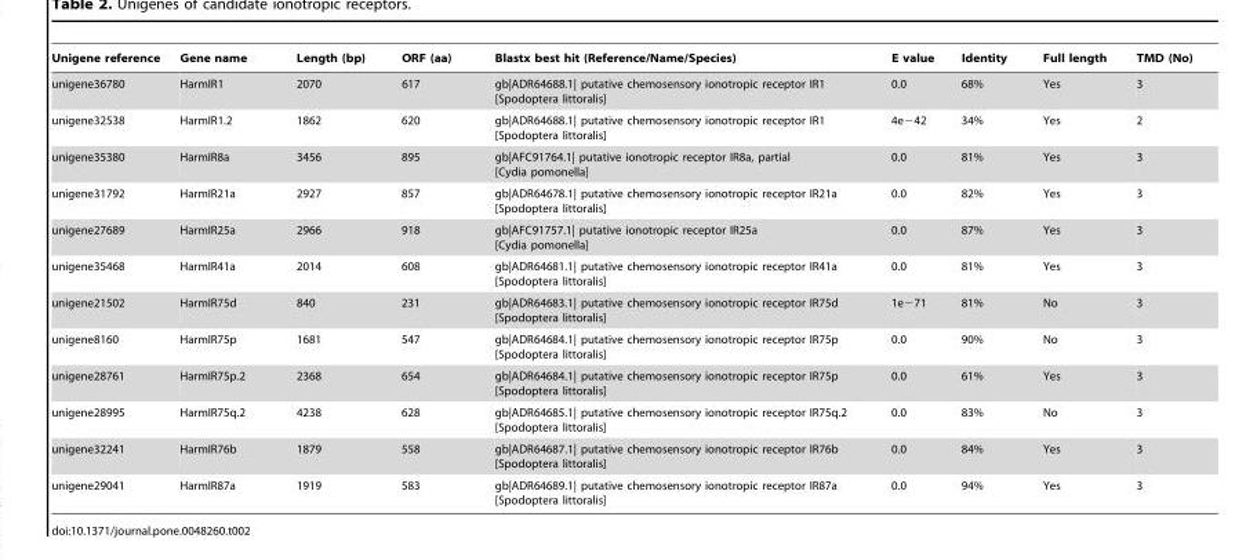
<table><thead><tr><td>Unigene reference</td><td>Gene name</td><td>Length (bp)</td><td>ORF (aa)</td><td>Blastx best hit (Reference/Name/Species)</td><td>E value</td><td>Identity</td><td>Full length</td><td>TMD (No)</td></tr></thead><tbody><tr><td>unigene36780</td><td>HarmIR1</td><td>2070</td><td>617</td><td>gb|ADR64688.1| putative chemosensory ionotropic receptor IR1 [Spodoptera littoralis]</td><td>0.0</td><td>68%</td><td>Yes</td><td>3</td></tr><tr><td>unigene32538</td><td>HarmIR1.2</td><td>1862</td><td>620</td><td>gb|ADR64688.1| putative chemosensory ionotropic receptor IR1 [Spodoptera littoralis]</td><td>4e−42</td><td>34%</td><td>Yes</td><td>2</td></tr><tr><td>unigene35380</td><td>HarmIR8a</td><td>3456</td><td>895</td><td>gb|AFC91764.1| putative ionotropic receptor IR8a, partial [Cydia pomonella]</td><td>0.0</td><td>81%</td><td>Yes</td><td>3</td></tr><tr><td>unigene31792</td><td>HarmIR21a</td><td>2927</td><td>857</td><td>gb|ADR64678.1| putative chemosensory ionotropic receptor IR21a [Spodoptera littoralis]</td><td>0.0</td><td>82%</td><td>Yes</td><td>3</td></tr><tr><td>unigene27689</td><td>HarmIR25a</td><td>2966</td><td>918</td><td>gb|AFC91757.1| putative ionotropic receptor IR25a [Cydia pomonella]</td><td>0.0</td><td>87%</td><td>Yes</td><td>3</td></tr><tr><td>unigene35468</td><td>HarmIR41a</td><td>2014</td><td>608</td><td>gb|ADR64681.1| putative chemosensory ionotropic receptor IR41a [Spodoptera littoralis]</td><td>0.0</td><td>81%</td><td>Yes</td><td>3</td></tr><tr><td>unigene21502</td><td>HarmIR75d</td><td>840</td><td>231</td><td>gb|ADR64683.1| putative chemosensory ionotropic receptor IR75d [Spodoptera littoralis]</td><td>1e−71</td><td>81%</td><td>No</td><td>3</td></tr><tr><td>unigene8160</td><td>HarmIR75p</td><td>1681</td><td>547</td><td>gb|ADR64684.1| putative chemosensory ionotropic receptor IR75p [Spodoptera littoralis]</td><td>0.0</td><td>90%</td><td>No</td><td>3</td></tr><tr><td>unigene28761</td><td>HarmIR75p.2</td><td>2368</td><td>654</td><td>gb|ADR64684.1| putative chemosensory ionotropic receptor IR75p [Spodoptera littoralis]</td><td>0.0</td><td>61%</td><td>Yes</td><td>3</td></tr><tr><td>unigene28995</td><td>HarmIR75q.2</td><td>4238</td><td>628</td><td>gb|ADR64685.1| putative chemosensory ionotropic receptor IR75q.2 [Spodoptera littoralis]</td><td>0.0</td><td>83%</td><td>No</td><td>3</td></tr><tr><td>unigene32241</td><td>HarmIR76b</td><td>1879</td><td>558</td><td>gb|ADR64687.1| putative chemosensory ionotropic receptor IR76b [Spodoptera littoralis]</td><td>0.0</td><td>84%</td><td>Yes</td><td>3</td></tr><tr><td>unigene29041</td><td>HarmIR87a</td><td>1919</td><td>583</td><td>gb|ADR64689.1| putative chemosensory ionotropic receptor IR87a [Spodoptera littoralis]</td><td>0.0</td><td>94%</td><td>Yes</td><td>3</td></tr></tbody></table>